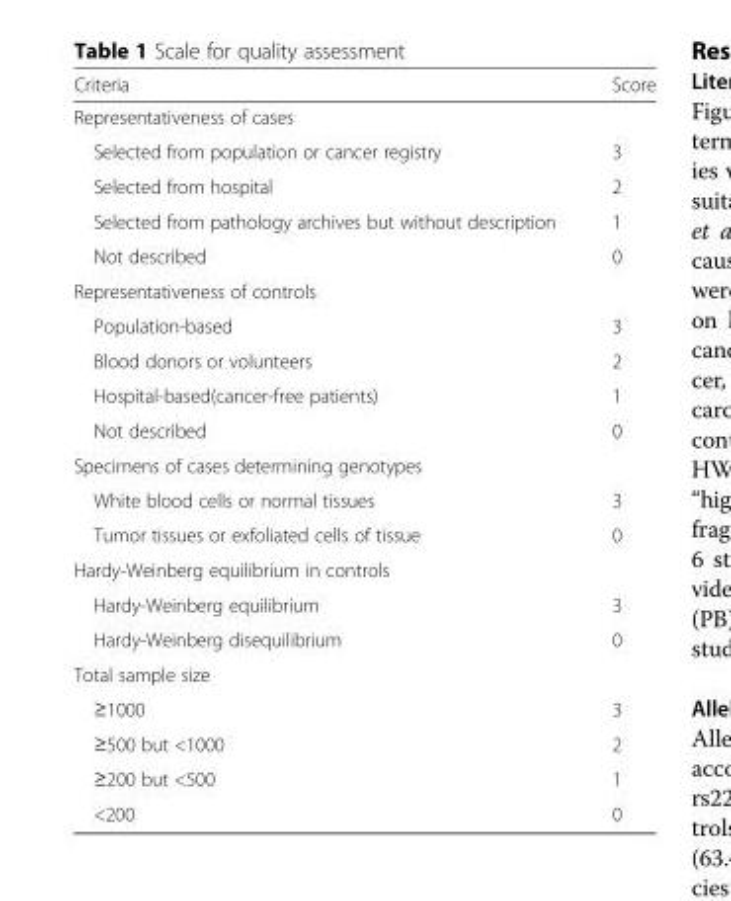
<table><thead><tr><td>Criteria</td><td>Score</td></tr></thead><tbody><tr><td colspan="2">Representativeness of cases</td></tr><tr><td>Selected from population or cancer registry</td><td>3</td></tr><tr><td>Selected from hospital</td><td>2</td></tr><tr><td>Selected from pathology archives but without description</td><td>1</td></tr><tr><td>Not described</td><td>0</td></tr><tr><td colspan="2">Representativeness of controls</td></tr><tr><td>Population-based</td><td>3</td></tr><tr><td>Blood donors or volunteers</td><td>2</td></tr><tr><td>Hospital-based(cancer-free patients)</td><td>1</td></tr><tr><td>Not described</td><td>0</td></tr><tr><td colspan="2">Specimens of cases determining genotypes</td></tr><tr><td>White blood cells or normal tissues</td><td>3</td></tr><tr><td>Tumor tissues or exfoliated cells of tissue</td><td>0</td></tr><tr><td colspan="2">Hardy-Weinberg equilibrium in controls</td></tr><tr><td>Hardy-Weinberg equilibrium</td><td>3</td></tr><tr><td>Hardy-Weinberg disequilibrium</td><td>0</td></tr><tr><td colspan="2">Total sample size</td></tr><tr><td>≥1000</td><td>3</td></tr><tr><td>≥500 but &lt;1000</td><td>2</td></tr><tr><td>≥200 but &lt;500</td><td>1</td></tr><tr><td>&lt;200</td><td>0</td></tr></tbody></table>